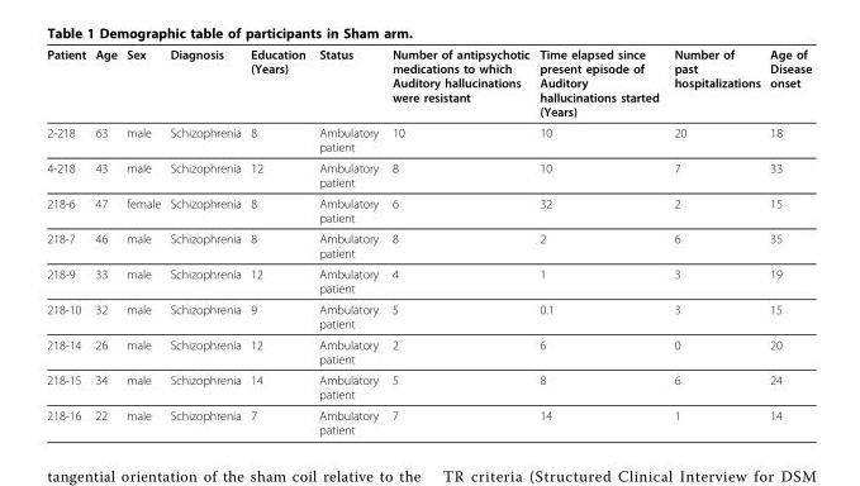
<table><thead><tr><td>Patient</td><td>Age</td><td>Sex</td><td>Diagnosis</td><td>Education (Years)</td><td>Status</td><td>Number of antipsychotic medications to which Auditory hallucinations were resistant</td><td>Time elapsed since present episode of Auditory hallucinations started (Years)</td><td>Number of past hospitalizations</td><td>Age of Disease onset</td></tr></thead><tbody><tr><td>2-218</td><td>63</td><td>male</td><td>Schizophrenia</td><td>8</td><td>Ambulatory patient</td><td>10</td><td>10</td><td>20</td><td>18</td></tr><tr><td>4-218</td><td>43</td><td>male</td><td>Schizophrenia</td><td>12</td><td>Ambulatory patient</td><td>8</td><td>10</td><td>7</td><td>33</td></tr><tr><td>218-6</td><td>47</td><td>female</td><td>Schizophrenia</td><td>8</td><td>Ambulatory patient</td><td>6</td><td>32</td><td>2</td><td>15</td></tr><tr><td>218-7</td><td>46</td><td>male</td><td>Schizophrenia</td><td>8</td><td>Ambulatory patient</td><td>8</td><td>2</td><td>6</td><td>35</td></tr><tr><td>218-9</td><td>33</td><td>male</td><td>Schizophrenia</td><td>12</td><td>Ambulatory patient</td><td>4</td><td>1</td><td>3</td><td>19</td></tr><tr><td>218-10</td><td>32</td><td>male</td><td>Schizophrenia</td><td>9</td><td>Ambulatory patient</td><td>5</td><td>0.1</td><td>3</td><td>15</td></tr><tr><td>218-14</td><td>26</td><td>male</td><td>Schizophrenia</td><td>12</td><td>Ambulatory patient</td><td>2</td><td>6</td><td>0</td><td>20</td></tr><tr><td>218-15</td><td>34</td><td>male</td><td>Schizophrenia</td><td>14</td><td>Ambulatory patient</td><td>5</td><td>8</td><td>6</td><td>24</td></tr><tr><td>218-16</td><td>22</td><td>male</td><td>Schizophrenia</td><td>7</td><td>Ambulatory patient</td><td>7</td><td>14</td><td>1</td><td>14</td></tr></tbody></table>